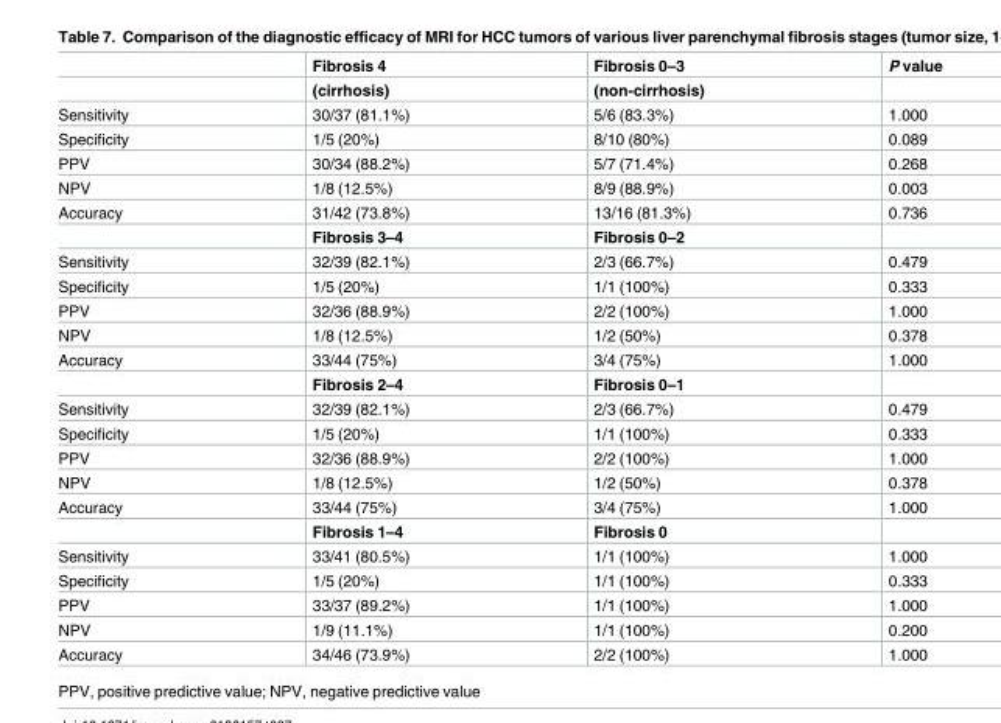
<table><thead><tr><td></td><td>Fibrosis 4</td><td>Fibrosis 0–3</td><td>P value</td></tr></thead><tbody><tr><td></td><td>(cirrhosis)</td><td>(non-cirrhosis)</td><td></td></tr><tr><td>Sensitivity</td><td>30/37 (81.1%)</td><td>5/6 (83.3%)</td><td>1.000</td></tr><tr><td>Specificity</td><td>1/5 (20%)</td><td>8/10 (80%)</td><td>0.089</td></tr><tr><td>PPV</td><td>30/34 (88.2%)</td><td>5/7 (71.4%)</td><td>0.268</td></tr><tr><td>NPV</td><td>1/8 (12.5%)</td><td>8/9 (88.9%)</td><td>0.003</td></tr><tr><td rowspan="2">Accuracy</td><td>31/42 (73.8%)</td><td>13/16 (81.3%)</td><td>0.736</td></tr><tr><td>Fibrosis 3–4</td><td>Fibrosis 0–2</td><td></td></tr><tr><td>Sensitivity</td><td>32/39 (82.1%)</td><td>2/3 (66.7%)</td><td>0.479</td></tr><tr><td>Specificity</td><td>1/5 (20%)</td><td>1/1 (100%)</td><td>0.333</td></tr><tr><td>PPV</td><td>32/36 (88.9%)</td><td>2/2 (100%)</td><td>1.000</td></tr><tr><td>NPV</td><td>1/8 (12.5%)</td><td>1/2 (50%)</td><td>0.378</td></tr><tr><td rowspan="2">Accuracy</td><td>33/44 (75%)</td><td>3/4 (75%)</td><td>1.000</td></tr><tr><td>Fibrosis 2–4</td><td>Fibrosis 0–1</td><td></td></tr><tr><td>Sensitivity</td><td>32/39 (82.1%)</td><td>2/3 (66.7%)</td><td>0.479</td></tr><tr><td>Specificity</td><td>1/5 (20%)</td><td>1/1 (100%)</td><td>0.333</td></tr><tr><td>PPV</td><td>32/36 (88.9%)</td><td>2/2 (100%)</td><td>1.000</td></tr><tr><td>NPV</td><td>1/8 (12.5%)</td><td>1/2 (50%)</td><td>0.378</td></tr><tr><td rowspan="2">Accuracy</td><td>33/44 (75%)</td><td>3/4 (75%)</td><td>1.000</td></tr><tr><td>Fibrosis 1–4</td><td>Fibrosis 0</td><td></td></tr><tr><td>Sensitivity</td><td>33/41 (80.5%)</td><td>1/1 (100%)</td><td>1.000</td></tr><tr><td>Specificity</td><td>1/5 (20%)</td><td>1/1 (100%)</td><td>0.333</td></tr><tr><td>PPV</td><td>33/37 (89.2%)</td><td>1/1 (100%)</td><td>1.000</td></tr><tr><td>NPV</td><td>1/9 (11.1%)</td><td>1/1 (100%)</td><td>0.200</td></tr><tr><td>Accuracy</td><td>34/46 (73.9%)</td><td>2/2 (100%)</td><td>1.000</td></tr></tbody></table>